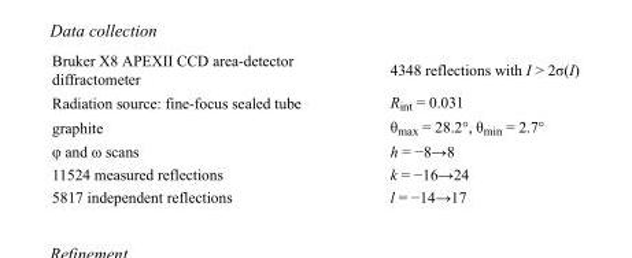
<table><tbody><tr><td>Bruker X8 APEXII CCD area-detector diffractometer</td><td>4348 reflections with I &gt; 2σ(I)</td></tr><tr><td>Radiation source: fine-focus sealed tube</td><td>R<sub>int</sub> = 0.031</td></tr><tr><td>graphite</td><td>θ<sub>max</sub> = 28.2°, θ<sub>min</sub> = 2.7°</td></tr><tr><td>φ and ω scans</td><td>h = −8→8</td></tr><tr><td>11524 measured reflections</td><td>k = −16→24</td></tr><tr><td>5817 independent reflections</td><td>l = −14→17</td></tr></tbody></table>